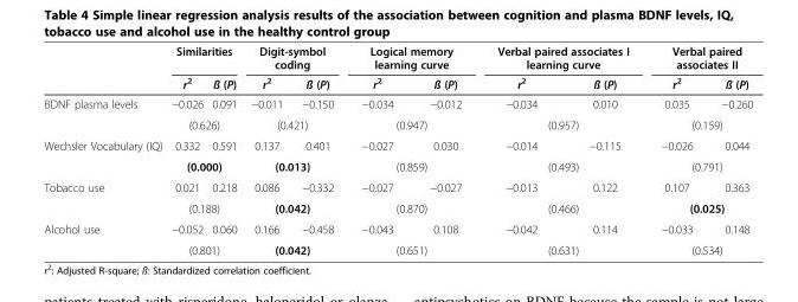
<table><thead><tr><td rowspan="2"></td><td colspan="2">Similarities</td><td colspan="2">Digit-symbol coding</td><td colspan="2">Logical memory learning curve</td><td colspan="2">Verbal paired associates I learning curve</td><td colspan="2">Verbal paired associates II</td></tr><tr><td>r<sup>2</sup></td><td>ß (P)</td><td>r<sup>2</sup></td><td>ß (P)</td><td>r<sup>2</sup></td><td>ß (P)</td><td>r<sup>2</sup></td><td>ß (P)</td><td>r<sup>2</sup></td><td>ß (P)</td></tr></thead><tbody><tr><td rowspan="2">BDNF plasma levels</td><td>−0.026</td><td>0.091</td><td>−0.011</td><td>−0.150</td><td>−0.034</td><td>−0.012</td><td>−0.034</td><td>0.010</td><td>0.035</td><td>−0.260</td></tr><tr><td colspan="2">(0.626)</td><td colspan="2">(0.421)</td><td colspan="2">(0.947)</td><td colspan="2">(0.957)</td><td colspan="2">(0.159)</td></tr><tr><td rowspan="2">Wechsler Vocabulary (IQ)</td><td>0.332</td><td>0.591</td><td>0.137</td><td>0.401</td><td>−0.027</td><td>0.030</td><td>−0.014</td><td>−0.115</td><td>−0.026</td><td>0.044</td></tr><tr><td colspan="2">(0.000)</td><td colspan="2">(0.013)</td><td colspan="2">(0.859)</td><td colspan="2">(0.493)</td><td colspan="2">(0.791)</td></tr><tr><td rowspan="2">Tobacco use</td><td>0.021</td><td>0.218</td><td>0.086</td><td>−0.332</td><td>−0.027</td><td>−0.027</td><td>−0.013</td><td>0.122</td><td>0.107</td><td>0.363</td></tr><tr><td colspan="2">(0.188)</td><td colspan="2">(0.042)</td><td colspan="2">(0.870)</td><td colspan="2">(0.466)</td><td colspan="2">(0.025)</td></tr><tr><td rowspan="2">Alcohol use</td><td>−0.052</td><td>0.060</td><td>0.166</td><td>−0.458</td><td>−0.043</td><td>0.108</td><td>−0.042</td><td>0.114</td><td>−0.033</td><td>0.148</td></tr><tr><td colspan="2">(0.801)</td><td colspan="2">(0.042)</td><td colspan="2">(0.651)</td><td colspan="2">(0.631)</td><td colspan="2">(0.534)</td></tr></tbody></table>